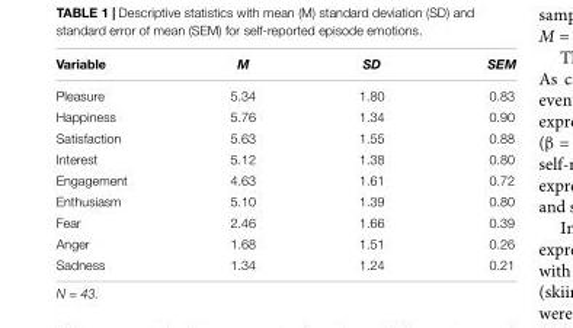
<table><thead><tr><td>Variable</td><td>M</td><td>SD</td><td>SEM</td></tr></thead><tbody><tr><td>Pleasure</td><td>5.34</td><td>1.80</td><td>0.83</td></tr><tr><td>Happiness</td><td>5.76</td><td>1.34</td><td>0.90</td></tr><tr><td>Satisfaction</td><td>5.63</td><td>1.55</td><td>0.88</td></tr><tr><td>Interest</td><td>5.12</td><td>1.38</td><td>0.80</td></tr><tr><td>Engagement</td><td>4.63</td><td>1.61</td><td>0.72</td></tr><tr><td>Enthusiasm</td><td>5.10</td><td>1.39</td><td>0.80</td></tr><tr><td>Fear</td><td>2.46</td><td>1.66</td><td>0.39</td></tr><tr><td>Anger</td><td>1.68</td><td>1.51</td><td>0.26</td></tr><tr><td>Sadness</td><td>1.34</td><td>1.24</td><td>0.21</td></tr></tbody></table>